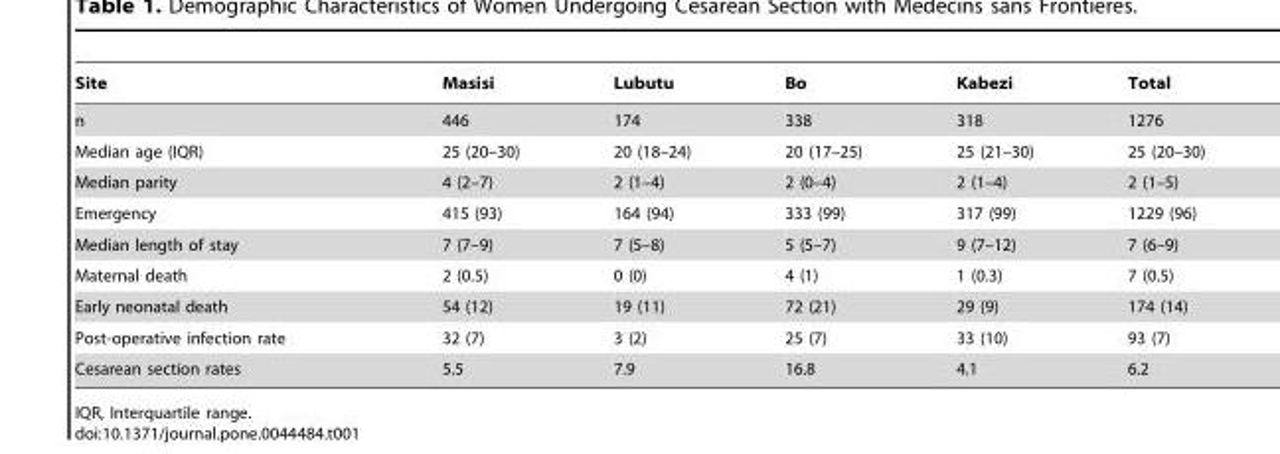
<table><thead><tr><td>Site</td><td>Masisi</td><td>Lubutu</td><td>Bo</td><td>Kabezi</td><td>Total</td></tr></thead><tbody><tr><td>n</td><td>446</td><td>174</td><td>338</td><td>318</td><td>1276</td></tr><tr><td>Median age (IQR)</td><td>25 (20–30)</td><td>20 (18–24)</td><td>20 (17–25)</td><td>25 (21–30)</td><td>25 (20–30)</td></tr><tr><td>Median parity</td><td>4 (2–7)</td><td>2 (1–4)</td><td>2 (0–4)</td><td>2 (1–4)</td><td>2 (1–5)</td></tr><tr><td>Emergency</td><td>415 (93)</td><td>164 (94)</td><td>333 (99)</td><td>317 (99)</td><td>1229 (96)</td></tr><tr><td>Median length of stay</td><td>7 (7–9)</td><td>7 (5–8)</td><td>5 (5–7)</td><td>9 (7–12)</td><td>7 (6–9)</td></tr><tr><td>Maternal death</td><td>2 (0.5)</td><td>0 (0)</td><td>4 (1)</td><td>1 (0.3)</td><td>7 (0.5)</td></tr><tr><td>Early neonatal death</td><td>54 (12)</td><td>19 (11)</td><td>72 (21)</td><td>29 (9)</td><td>174 (14)</td></tr><tr><td>Post-operative infection rate</td><td>32 (7)</td><td>3 (2)</td><td>25 (7)</td><td>33 (10)</td><td>93 (7)</td></tr><tr><td>Cesarean section rates</td><td>5.5</td><td>7.9</td><td>16.8</td><td>4.1</td><td>6.2</td></tr></tbody></table>